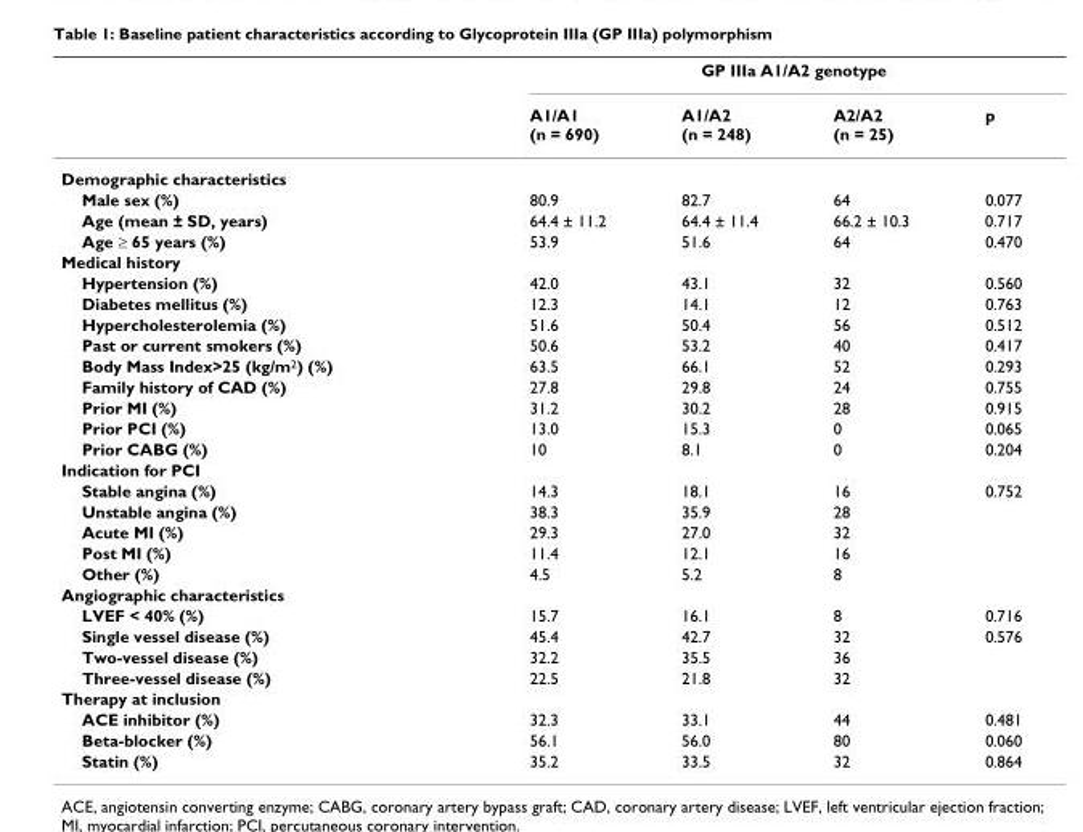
<table><thead><tr><td rowspan="2"></td><td colspan="4">GP IIIa A1/A2 genotype</td></tr><tr><td>A1/A1 (n = 690)</td><td>A1/A2 (n = 248)</td><td>A2/A2 (n = 25)</td><td>p</td></tr></thead><tbody><tr><td colspan="5">Demographic characteristics</td></tr><tr><td>Male sex (%)</td><td>80.9</td><td>82.7</td><td>64</td><td>0.077</td></tr><tr><td>Age (mean ± SD, years)</td><td>64.4 ± 11.2</td><td>64.4 ± 11.4</td><td>66.2 ± 10.3</td><td>0.717</td></tr><tr><td>Age ≥ 65 years (%)</td><td>53.9</td><td>51.6</td><td>64</td><td>0.470</td></tr><tr><td colspan="5">Medical history</td></tr><tr><td>Hypertension (%)</td><td>42.0</td><td>43.1</td><td>32</td><td>0.560</td></tr><tr><td>Diabetes mellitus (%)</td><td>12.3</td><td>14.1</td><td>12</td><td>0.763</td></tr><tr><td>Hypercholesterolemia (%)</td><td>51.6</td><td>50.4</td><td>56</td><td>0.512</td></tr><tr><td>Past or current smokers (%)</td><td>50.6</td><td>53.2</td><td>40</td><td>0.417</td></tr><tr><td>Body Mass Index&gt;25 (kg/m<sup>2</sup>) (%)</td><td>63.5</td><td>66.1</td><td>52</td><td>0.293</td></tr><tr><td>Family history of CAD (%)</td><td>27.8</td><td>29.8</td><td>24</td><td>0.755</td></tr><tr><td>Prior MI (%)</td><td>31.2</td><td>30.2</td><td>28</td><td>0.915</td></tr><tr><td>Prior PCI (%)</td><td>13.0</td><td>15.3</td><td>0</td><td>0.065</td></tr><tr><td>Prior CABG (%)</td><td>10</td><td>8.1</td><td>0</td><td>0.204</td></tr><tr><td colspan="5">Indication for PCI</td></tr><tr><td>Stable angina (%)</td><td>14.3</td><td>18.1</td><td>16</td><td>0.752</td></tr><tr><td>Unstable angina (%)</td><td>38.3</td><td>35.9</td><td>28</td><td></td></tr><tr><td>Acute MI (%)</td><td>29.3</td><td>27.0</td><td>32</td><td></td></tr><tr><td>Post MI (%)</td><td>11.4</td><td>12.1</td><td>16</td><td></td></tr><tr><td>Other (%)</td><td>4.5</td><td>5.2</td><td>8</td><td></td></tr><tr><td colspan="5">Angiographic characteristics</td></tr><tr><td>LVEF &lt; 40% (%)</td><td>15.7</td><td>16.1</td><td>8</td><td>0.716</td></tr><tr><td>Single vessel disease (%)</td><td>45.4</td><td>42.7</td><td>32</td><td>0.576</td></tr><tr><td>Two-vessel disease (%)</td><td>32.2</td><td>35.5</td><td>36</td><td></td></tr><tr><td>Three-vessel disease (%)</td><td>22.5</td><td>21.8</td><td>32</td><td></td></tr><tr><td colspan="5">Therapy at inclusion</td></tr><tr><td>ACE inhibitor (%)</td><td>32.3</td><td>33.1</td><td>44</td><td>0.481</td></tr><tr><td>Beta-blocker (%)</td><td>56.1</td><td>56.0</td><td>80</td><td>0.060</td></tr><tr><td>Statin (%)</td><td>35.2</td><td>33.5</td><td>32</td><td>0.864</td></tr></tbody></table>